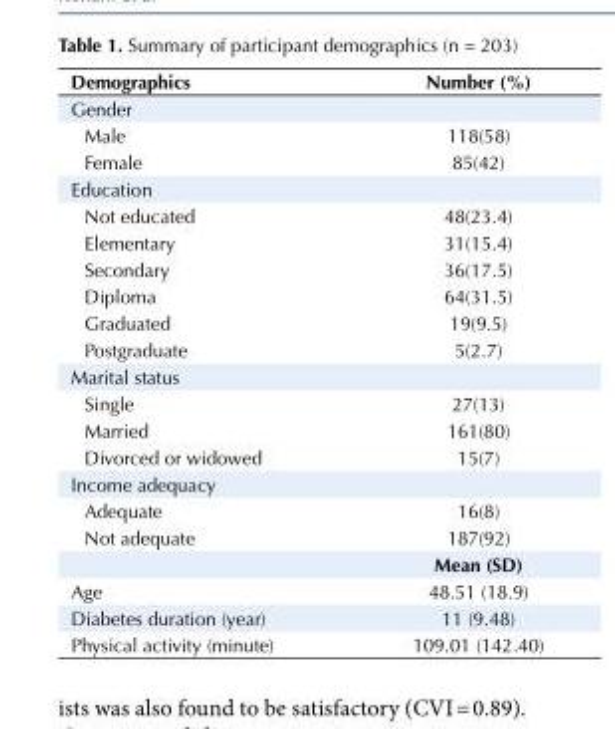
<table><tbody><tr><td>Demographics</td><td>Number (%)</td></tr><tr><td colspan="2">Gender</td></tr><tr><td>Male</td><td>118(58)</td></tr><tr><td>Female</td><td>85(42)</td></tr><tr><td colspan="2">Education</td></tr><tr><td>Not educated</td><td>48(23.4)</td></tr><tr><td>Elementary</td><td>31(15.4)</td></tr><tr><td>Secondary</td><td>36(17.5)</td></tr><tr><td>Diploma</td><td>64(31.5)</td></tr><tr><td>Graduated</td><td>19(9.5)</td></tr><tr><td>Postgraduate</td><td>5(2.7)</td></tr><tr><td colspan="2">Marital status</td></tr><tr><td>Single</td><td>27(13)</td></tr><tr><td>Married</td><td>161(80)</td></tr><tr><td>Divorced or widowed</td><td>15(7)</td></tr><tr><td colspan="2">Income adequacy</td></tr><tr><td>Adequate</td><td>16(8)</td></tr><tr><td rowspan="2">Not adequate</td><td>187(92)</td></tr><tr><td>Mean (SD)</td></tr><tr><td>Age</td><td>48.51 (18.9)</td></tr><tr><td>Diabetes duration (year)</td><td>11 (9.48)</td></tr><tr><td>Physical activity (minute)</td><td>109.01 (142.40)</td></tr></tbody></table>